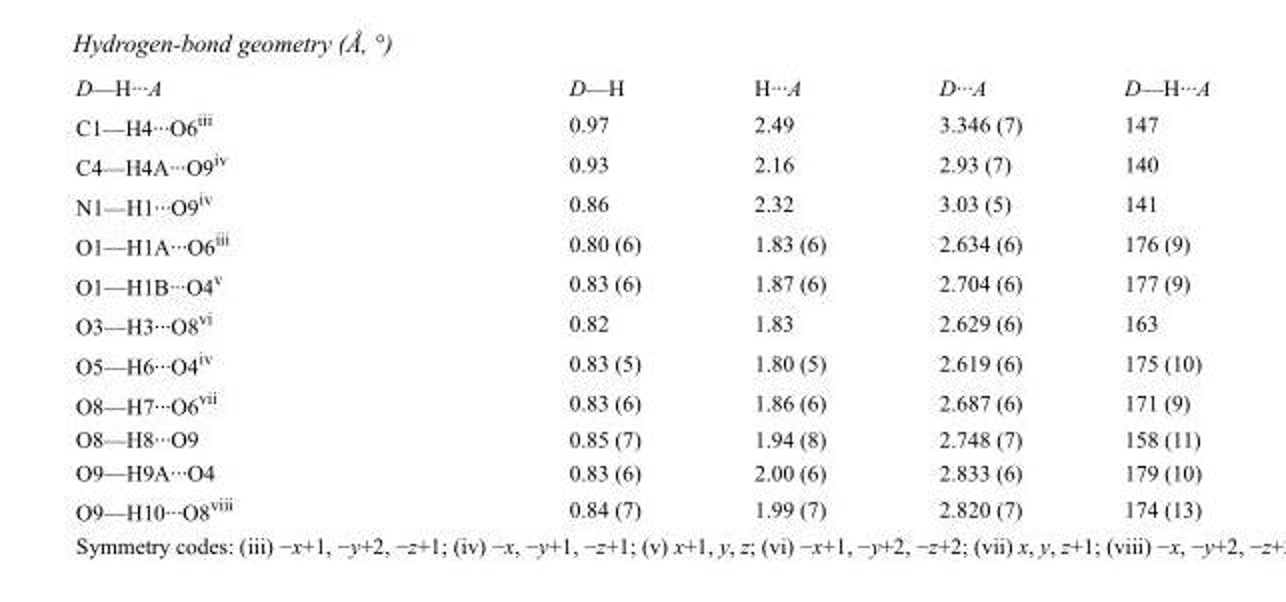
<table><tbody><tr><td>D—H···A</td><td>D—H</td><td>H···A</td><td>D···A</td><td>D—H···A</td></tr><tr><td>C1—H4···O6<sup>iii</sup></td><td>0.97</td><td>2.49</td><td>3.346 (7)</td><td>147</td></tr><tr><td>C4—H4A···O9<sup>iv</sup></td><td>0.93</td><td>2.16</td><td>2.93 (7)</td><td>140</td></tr><tr><td>N1—H1···O9<sup>iv</sup></td><td>0.86</td><td>2.32</td><td>3.03 (5)</td><td>141</td></tr><tr><td>O1—H1A···O6<sup>iii</sup></td><td>0.80 (6)</td><td>1.83 (6)</td><td>2.634 (6)</td><td>176 (9)</td></tr><tr><td>O1—H1B···O4<sup>v</sup></td><td>0.83 (6)</td><td>1.87 (6)</td><td>2.704 (6)</td><td>177 (9)</td></tr><tr><td>O3—H3···O8<sup>vi</sup></td><td>0.82</td><td>1.83</td><td>2.629 (6)</td><td>163</td></tr><tr><td>O5—H6···O4<sup>iv</sup></td><td>0.83 (5)</td><td>1.80 (5)</td><td>2.619 (6)</td><td>175 (10)</td></tr><tr><td>O8—H7···O6<sup>vii</sup></td><td>0.83 (6)</td><td>1.86 (6)</td><td>2.687 (6)</td><td>171 (9)</td></tr><tr><td>O8—H8···O9</td><td>0.85 (7)</td><td>1.94 (8)</td><td>2.748 (7)</td><td>158 (11)</td></tr><tr><td>O9—H9A···O4</td><td>0.83 (6)</td><td>2.00 (6)</td><td>2.833 (6)</td><td>179 (10)</td></tr><tr><td>O9—H10···O8<sup>viii</sup></td><td>0.84 (7)</td><td>1.99 (7)</td><td>2.820 (7)</td><td>174 (13)</td></tr></tbody></table>